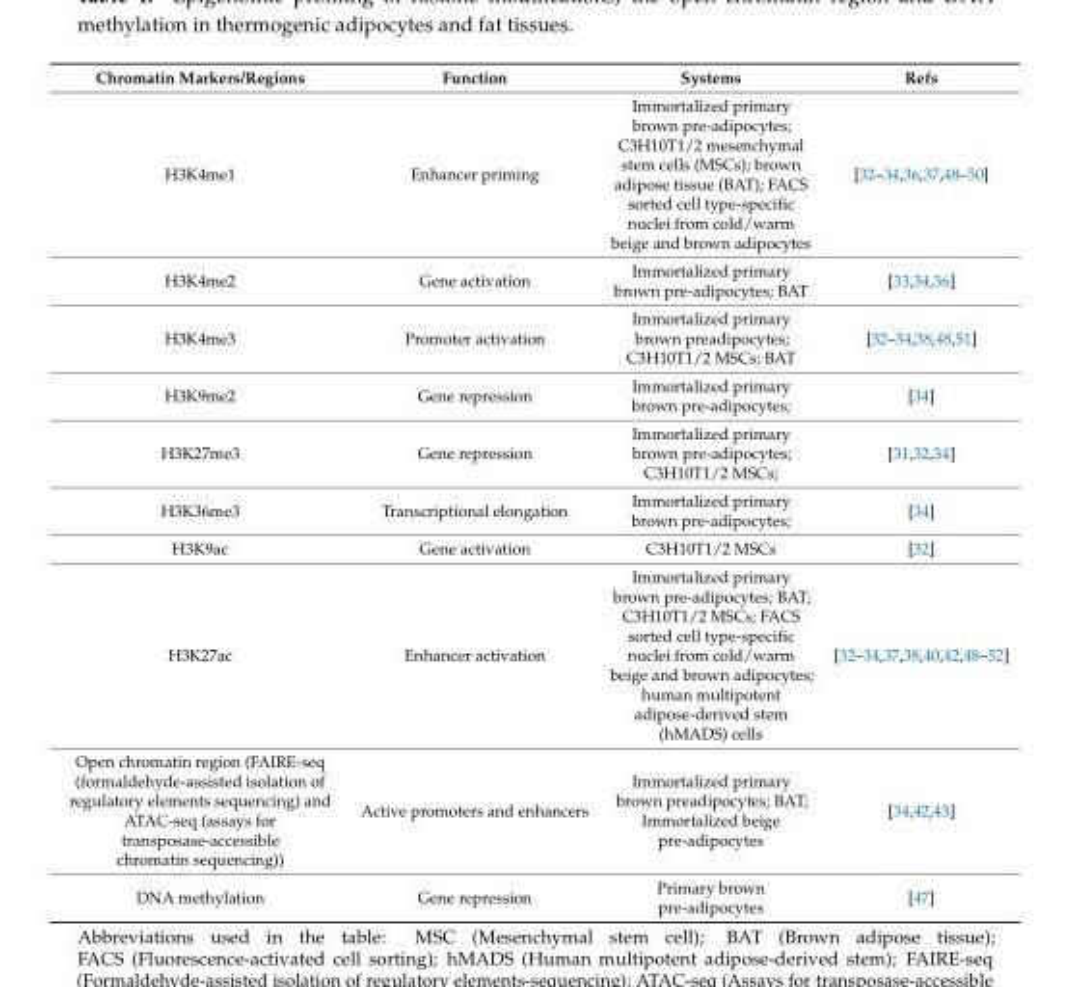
<table><thead><tr><td>Chromatin Markers/Regions</td><td>Function</td><td>Systems</td><td>Refs</td></tr></thead><tbody><tr><td>H3K4me1</td><td>Enhancer priming</td><td>Immortalized primary brown pre-adipocytes; C3H10T1/2 mesenchymal stem cells (MSCs); brown adipose tissue (BAT); FACS sorted cell type-specific nuclei from cold/warm beige and brown adipocytes</td><td>[32–34,36,37,48–50]</td></tr><tr><td>H3K4me2</td><td>Gene activation</td><td>Immortalized primary brown pre-adipocytes; BAT</td><td>[33,34,36]</td></tr><tr><td>H3K4me3</td><td>Promoter activation</td><td>Immortalized primary brown preadipocytes; C3H10T1/2 MSCs; BAT</td><td>[32–34,38,48,51]</td></tr><tr><td>H3K9me2</td><td>Gene repression</td><td>Immortalized primary brown pre-adipocytes;</td><td>[34]</td></tr><tr><td>H3K27me3</td><td>Gene repression</td><td>Immortalized primary brown pre-adipocytes; C3H10T1/2 MSCs;</td><td>[31,32,34]</td></tr><tr><td>H3K36me3</td><td>Transcriptional elongation</td><td>Immortalized primary brown pre-adipocytes;</td><td>[34]</td></tr><tr><td>H3K9ac</td><td>Gene activation</td><td>C3H10T1/2 MSCs</td><td>[32]</td></tr><tr><td>H3K27ac</td><td>Enhancer activation</td><td>Immortalized primary brown pre-adipocytes; BAT; C3H10T1/2 MSCs; FACS sorted cell type-specific nuclei from cold/warm beige and brown adipocytes; human multipotent adipose-derived stem (hMADS) cells</td><td>[32–34,37,38,40,42,48–52]</td></tr><tr><td>Open chromatin region (FAIRE-seq (formaldehyde-assisted isolation of regulatory elements sequencing) and ATAC-seq (assays for transposase-accessible chromatin sequencing))</td><td>Active promoters and enhancers</td><td>Immortalized primary brown preadipocytes; BAT; Immortalized beige pre-adipocytes</td><td>[34,42,43]</td></tr><tr><td>DNA methylation</td><td>Gene repression</td><td>Primary brown pre-adipocytes</td><td>[47]</td></tr></tbody></table>